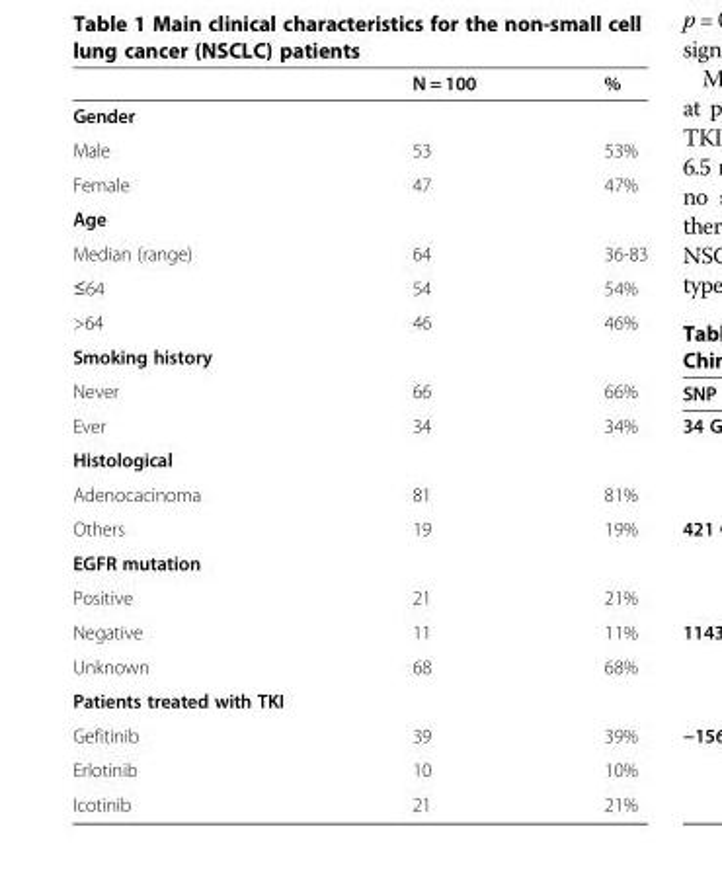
<table><thead><tr><td></td><td>N = 100</td><td>%</td></tr></thead><tbody><tr><td colspan="3">Gender</td></tr><tr><td>Male</td><td>53</td><td>53%</td></tr><tr><td>Female</td><td>47</td><td>47%</td></tr><tr><td colspan="3">Age</td></tr><tr><td>Median (range)</td><td>64</td><td>36-83</td></tr><tr><td>≤64</td><td>54</td><td>54%</td></tr><tr><td>&gt;64</td><td>46</td><td>46%</td></tr><tr><td colspan="3">Smoking history</td></tr><tr><td>Never</td><td>66</td><td>66%</td></tr><tr><td>Ever</td><td>34</td><td>34%</td></tr><tr><td colspan="3">Histological</td></tr><tr><td>Adenocacinoma</td><td>81</td><td>81%</td></tr><tr><td>Others</td><td>19</td><td>19%</td></tr><tr><td colspan="3">EGFR mutation</td></tr><tr><td>Positive</td><td>21</td><td>21%</td></tr><tr><td>Negative</td><td>11</td><td>11%</td></tr><tr><td>Unknown</td><td>68</td><td>68%</td></tr><tr><td colspan="3">Patients treated with TKI</td></tr><tr><td>Gefitinib</td><td>39</td><td>39%</td></tr><tr><td>Erlotinib</td><td>10</td><td>10%</td></tr><tr><td>Icotinib</td><td>21</td><td>21%</td></tr></tbody></table>